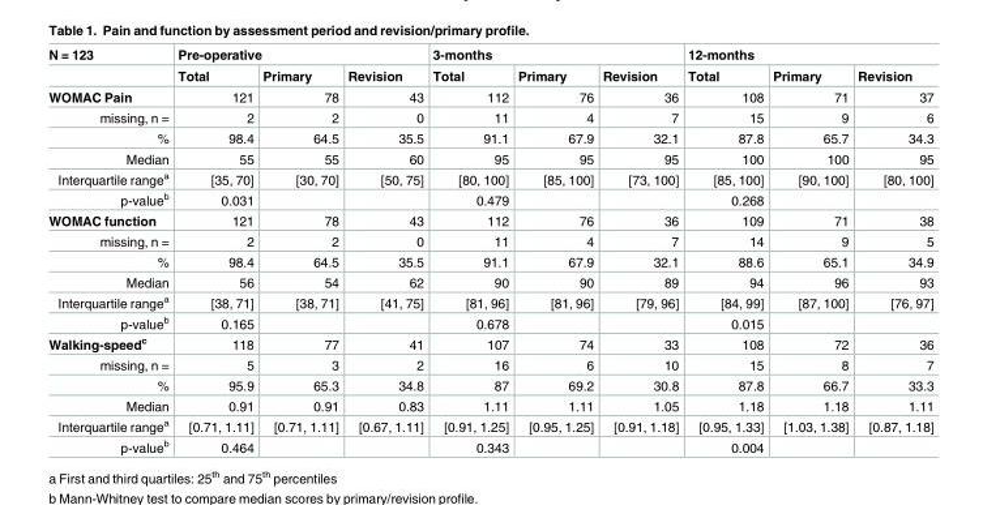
<table><thead><tr><td rowspan="2">N = 123</td><td colspan="3">Pre-operative</td><td colspan="3">3-months</td><td colspan="3">12-months</td></tr><tr><td>Total</td><td>Primary</td><td>Revision</td><td>Total</td><td>Primary</td><td>Revision</td><td>Total</td><td>Primary</td><td>Revision</td></tr></thead><tbody><tr><td>WOMAC Pain</td><td>121</td><td>78</td><td>43</td><td>112</td><td>76</td><td>36</td><td>108</td><td>71</td><td>37</td></tr><tr><td>missing, n =</td><td>2</td><td>2</td><td>0</td><td>11</td><td>4</td><td>7</td><td>15</td><td>9</td><td>6</td></tr><tr><td>%</td><td>98.4</td><td>64.5</td><td>35.5</td><td>91.1</td><td>67.9</td><td>32.1</td><td>87.8</td><td>65.7</td><td>34.3</td></tr><tr><td>Median</td><td>55</td><td>55</td><td>60</td><td>95</td><td>95</td><td>95</td><td>100</td><td>100</td><td>95</td></tr><tr><td>Interquartile range<sup>a</sup></td><td>[35, 70]</td><td>[30, 70]</td><td>[50, 75]</td><td>[80, 100]</td><td>[85, 100]</td><td>[73, 100]</td><td>[85, 100]</td><td>[90, 100]</td><td>[80, 100]</td></tr><tr><td>p-value<sup>b</sup></td><td>0.031</td><td></td><td></td><td>0.479</td><td></td><td></td><td>0.268</td><td></td><td></td></tr><tr><td>WOMAC function</td><td>121</td><td>78</td><td>43</td><td>112</td><td>76</td><td>36</td><td>109</td><td>71</td><td>38</td></tr><tr><td>missing, n =</td><td>2</td><td>2</td><td>0</td><td>11</td><td>4</td><td>7</td><td>14</td><td>9</td><td>5</td></tr><tr><td>%</td><td>98.4</td><td>64.5</td><td>35.5</td><td>91.1</td><td>67.9</td><td>32.1</td><td>88.6</td><td>65.1</td><td>34.9</td></tr><tr><td>Median</td><td>56</td><td>54</td><td>62</td><td>90</td><td>90</td><td>89</td><td>94</td><td>96</td><td>93</td></tr><tr><td>Interquartile range<sup>a</sup></td><td>[38, 71]</td><td>[38, 71]</td><td>[41, 75]</td><td>[81, 96]</td><td>[81, 96]</td><td>[79, 96]</td><td>[84, 99]</td><td>[87, 100]</td><td>[76, 97]</td></tr><tr><td>p-value<sup>b</sup></td><td>0.165</td><td></td><td></td><td>0.678</td><td></td><td></td><td>0.015</td><td></td><td></td></tr><tr><td>Walking-speed<sup>c</sup></td><td>118</td><td>77</td><td>41</td><td>107</td><td>74</td><td>33</td><td>108</td><td>72</td><td>36</td></tr><tr><td>missing, n =</td><td>5</td><td>3</td><td>2</td><td>16</td><td>6</td><td>10</td><td>15</td><td>8</td><td>7</td></tr><tr><td>%</td><td>95.9</td><td>65.3</td><td>34.8</td><td>87</td><td>69.2</td><td>30.8</td><td>87.8</td><td>66.7</td><td>33.3</td></tr><tr><td>Median</td><td>0.91</td><td>0.91</td><td>0.83</td><td>1.11</td><td>1.11</td><td>1.05</td><td>1.18</td><td>1.18</td><td>1.11</td></tr><tr><td>Interquartile range<sup>a</sup></td><td>[0.71, 1.11]</td><td>[0.71, 1.11]</td><td>[0.67, 1.11]</td><td>[0.91, 1.25]</td><td>[0.95, 1.25]</td><td>[0.91, 1.18]</td><td>[0.95, 1.33]</td><td>[1.03, 1.38]</td><td>[0.87, 1.18]</td></tr><tr><td>p-value<sup>b</sup></td><td>0.464</td><td></td><td></td><td>0.343</td><td></td><td></td><td>0.004</td><td></td><td></td></tr></tbody></table>